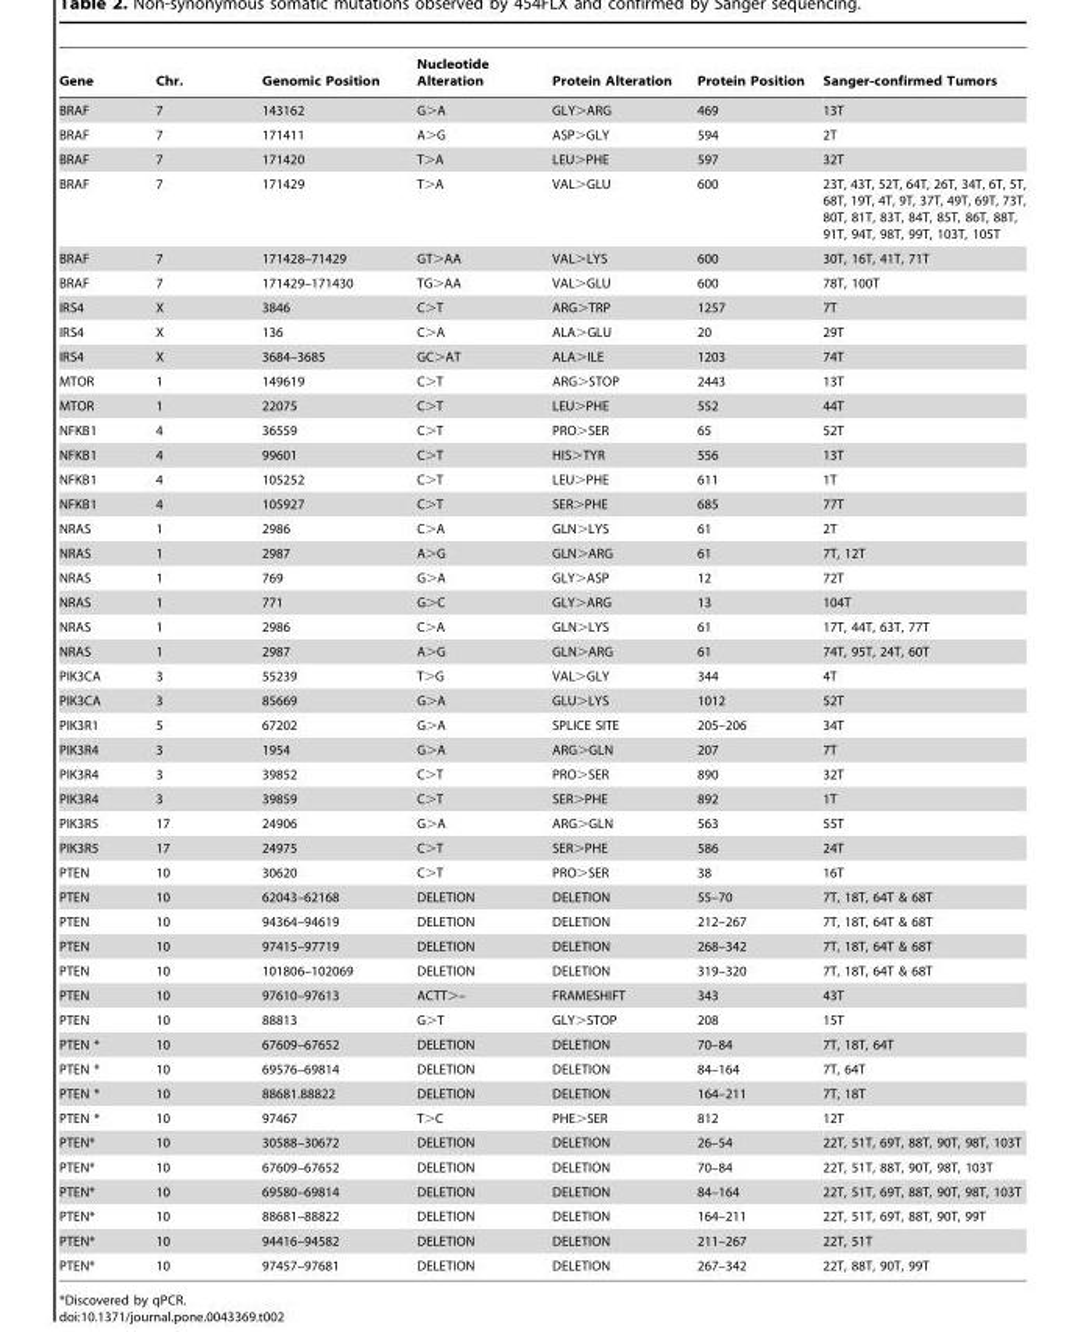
<table><thead><tr><td>Gene</td><td>Chr.</td><td>Genomic Position</td><td>Nucleotide Alteration</td><td>Protein Alteration</td><td>Protein Position</td><td>Sanger-confirmed Tumors</td></tr></thead><tbody><tr><td>BRAF</td><td>7</td><td>143162</td><td>G&gt;A</td><td>GLY&gt;ARG</td><td>469</td><td>13T</td></tr><tr><td>BRAF</td><td>7</td><td>171411</td><td>A&gt;G</td><td>ASP&gt;GLY</td><td>594</td><td>2T</td></tr><tr><td>BRAF</td><td>7</td><td>171420</td><td>T&gt;A</td><td>LEU&gt;PHE</td><td>597</td><td>32T</td></tr><tr><td>BRAF</td><td>7</td><td>171429</td><td>T&gt;A</td><td>VAL&gt;GLU</td><td>600</td><td>23T, 43T, 52T, 64T, 26T, 34T, 6T, 5T, 68T, 19T, 4T, 9T, 37T, 49T, 69T, 73T, 80T, 81T, 83T, 84T, 85T, 86T, 88T, 91T, 94T, 98T, 99T, 103T, 105T</td></tr><tr><td>BRAF</td><td>7</td><td>171428–71429</td><td>GT&gt;AA</td><td>VAL&gt;LYS</td><td>600</td><td>30T, 16T, 41T, 71T</td></tr><tr><td>BRAF</td><td>7</td><td>171429–171430</td><td>TG&gt;AA</td><td>VAL&gt;GLU</td><td>600</td><td>78T, 100T</td></tr><tr><td>IRS4</td><td>X</td><td>3846</td><td>C&gt;T</td><td>ARG&gt;TRP</td><td>1257</td><td>7T</td></tr><tr><td>IRS4</td><td>X</td><td>136</td><td>C&gt;A</td><td>ALA&gt;GLU</td><td>20</td><td>29T</td></tr><tr><td>IRS4</td><td>X</td><td>3684–3685</td><td>GC&gt;AT</td><td>ALA&gt;ILE</td><td>1203</td><td>74T</td></tr><tr><td>MTOR</td><td>1</td><td>149619</td><td>C&gt;T</td><td>ARG&gt;STOP</td><td>2443</td><td>13T</td></tr><tr><td>MTOR</td><td>1</td><td>22075</td><td>C&gt;T</td><td>LEU&gt;PHE</td><td>552</td><td>44T</td></tr><tr><td>NFKB1</td><td>4</td><td>36559</td><td>C&gt;T</td><td>PRO&gt;SER</td><td>65</td><td>52T</td></tr><tr><td>NFKB1</td><td>4</td><td>99601</td><td>C&gt;T</td><td>HIS&gt;TYR</td><td>556</td><td>13T</td></tr><tr><td>NFKB1</td><td>4</td><td>105252</td><td>C&gt;T</td><td>LEU&gt;PHE</td><td>611</td><td>1T</td></tr><tr><td>NFKB1</td><td>4</td><td>105927</td><td>C&gt;T</td><td>SER&gt;PHE</td><td>685</td><td>77T</td></tr><tr><td>NRAS</td><td>1</td><td>2986</td><td>C&gt;A</td><td>GLN&gt;LYS</td><td>61</td><td>2T</td></tr><tr><td>NRAS</td><td>1</td><td>2987</td><td>A&gt;G</td><td>GLN&gt;ARG</td><td>61</td><td>7T, 12T</td></tr><tr><td>NRAS</td><td>1</td><td>769</td><td>G&gt;A</td><td>GLY&gt;ASP</td><td>12</td><td>72T</td></tr><tr><td>NRAS</td><td>1</td><td>771</td><td>G&gt;C</td><td>GLY&gt;ARG</td><td>13</td><td>104T</td></tr><tr><td>NRAS</td><td>1</td><td>2986</td><td>C&gt;A</td><td>GLN&gt;LYS</td><td>61</td><td>17T, 44T, 63T, 77T</td></tr><tr><td>NRAS</td><td>1</td><td>2987</td><td>A&gt;G</td><td>GLN&gt;ARG</td><td>61</td><td>74T, 95T, 24T, 60T</td></tr><tr><td>PIK3CA</td><td>3</td><td>55239</td><td>T&gt;G</td><td>VAL&gt;GLY</td><td>344</td><td>4T</td></tr><tr><td>PIK3CA</td><td>3</td><td>85669</td><td>G&gt;A</td><td>GLU&gt;LYS</td><td>1012</td><td>52T</td></tr><tr><td>PIK3R1</td><td>5</td><td>67202</td><td>G&gt;A</td><td>SPLICE SITE</td><td>205–206</td><td>34T</td></tr><tr><td>PIK3R4</td><td>3</td><td>1954</td><td>G&gt;A</td><td>ARG&gt;GLN</td><td>207</td><td>7T</td></tr><tr><td>PIK3R4</td><td>3</td><td>39852</td><td>C&gt;T</td><td>PRO&gt;SER</td><td>890</td><td>32T</td></tr><tr><td>PIK3R4</td><td>3</td><td>39859</td><td>C&gt;T</td><td>SER&gt;PHE</td><td>892</td><td>1T</td></tr><tr><td>PIK3R5</td><td>17</td><td>24906</td><td>G&gt;A</td><td>ARG&gt;GLN</td><td>563</td><td>55T</td></tr><tr><td>PIK3R5</td><td>17</td><td>24975</td><td>C&gt;T</td><td>SER&gt;PHE</td><td>586</td><td>24T</td></tr><tr><td>PTEN</td><td>10</td><td>30620</td><td>C&gt;T</td><td>PRO&gt;SER</td><td>38</td><td>16T</td></tr><tr><td>PTEN</td><td>10</td><td>62043–62168</td><td>DELETION</td><td>DELETION</td><td>55–70</td><td>7T, 18T, 64T &amp; 68T</td></tr><tr><td>PTEN</td><td>10</td><td>94364–94619</td><td>DELETION</td><td>DELETION</td><td>212–267</td><td>7T, 18T, 64T &amp; 68T</td></tr><tr><td>PTEN</td><td>10</td><td>97415–97719</td><td>DELETION</td><td>DELETION</td><td>268–342</td><td>7T, 18T, 64T &amp; 68T</td></tr><tr><td>PTEN</td><td>10</td><td>101806–102069</td><td>DELETION</td><td>DELETION</td><td>319–320</td><td>7T, 18T, 64T &amp; 68T</td></tr><tr><td>PTEN</td><td>10</td><td>97610–97613</td><td>ACTT&gt;–</td><td>FRAMESHIFT</td><td>343</td><td>43T</td></tr><tr><td>PTEN</td><td>10</td><td>88813</td><td>G&gt;T</td><td>GLY&gt;STOP</td><td>208</td><td>15T</td></tr><tr><td>PTEN *</td><td>10</td><td>67609–67652</td><td>DELETION</td><td>DELETION</td><td>70–84</td><td>7T, 18T, 64T</td></tr><tr><td>PTEN *</td><td>10</td><td>69576–69814</td><td>DELETION</td><td>DELETION</td><td>84–164</td><td>7T, 64T</td></tr><tr><td>PTEN *</td><td>10</td><td>88681.88822</td><td>DELETION</td><td>DELETION</td><td>164–211</td><td>7T, 18T</td></tr><tr><td>PTEN *</td><td>10</td><td>97467</td><td>T&gt;C</td><td>PHE&gt;SER</td><td>812</td><td>12T</td></tr><tr><td>PTEN*</td><td>10</td><td>30588–30672</td><td>DELETION</td><td>DELETION</td><td>26–54</td><td>22T, 51T, 69T, 88T, 90T, 98T, 103T</td></tr><tr><td>PTEN*</td><td>10</td><td>67609–67652</td><td>DELETION</td><td>DELETION</td><td>70–84</td><td>22T, 51T, 88T, 90T, 98T, 103T</td></tr><tr><td>PTEN*</td><td>10</td><td>69580–69814</td><td>DELETION</td><td>DELETION</td><td>84–164</td><td>22T, 51T, 69T, 88T, 90T, 98T, 103T</td></tr><tr><td>PTEN*</td><td>10</td><td>88681–88822</td><td>DELETION</td><td>DELETION</td><td>164–211</td><td>22T, 51T, 69T, 88T, 90T, 99T</td></tr><tr><td>PTEN*</td><td>10</td><td>94416–94582</td><td>DELETION</td><td>DELETION</td><td>211–267</td><td>22T, 51T</td></tr><tr><td>PTEN*</td><td>10</td><td>97457–97681</td><td>DELETION</td><td>DELETION</td><td>267–342</td><td>22T, 88T, 90T, 99T</td></tr></tbody></table>